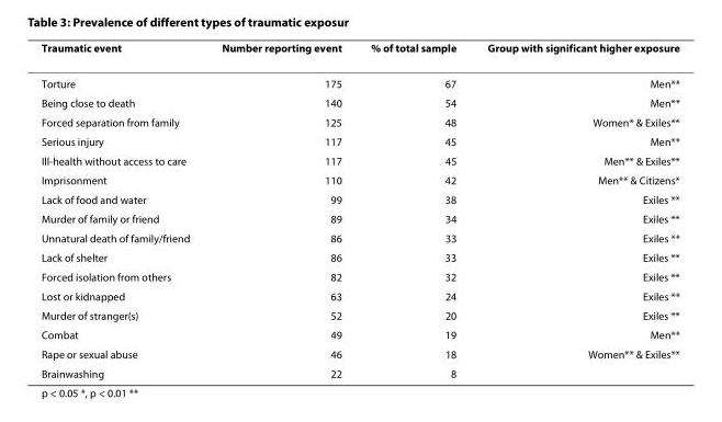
<table><thead><tr><td>Traumatic event</td><td>Number reporting event</td><td>% of total sample</td><td>Group with significant higher exposure</td></tr></thead><tbody><tr><td>Torture</td><td>175</td><td>67</td><td>Men**</td></tr><tr><td>Being close to death</td><td>140</td><td>54</td><td>Men**</td></tr><tr><td>Forced separation from family</td><td>125</td><td>48</td><td>Women* &amp; Exiles**</td></tr><tr><td>Serious injury</td><td>117</td><td>45</td><td>Men**</td></tr><tr><td>Ill-health without access to care</td><td>117</td><td>45</td><td>Men** &amp; Exiles**</td></tr><tr><td>Imprisonment</td><td>110</td><td>42</td><td>Men** &amp; Citizens*</td></tr><tr><td>Lack of food and water</td><td>99</td><td>38</td><td>Exiles **</td></tr><tr><td>Murder of family or friend</td><td>89</td><td>34</td><td>Exiles **</td></tr><tr><td>Unnatural death of family/friend</td><td>86</td><td>33</td><td>Exiles **</td></tr><tr><td>Lack of shelter</td><td>86</td><td>33</td><td>Exiles **</td></tr><tr><td>Forced isolation from others</td><td>82</td><td>32</td><td>Exiles **</td></tr><tr><td>Lost or kidnapped</td><td>63</td><td>24</td><td>Exiles **</td></tr><tr><td>Murder of stranger(s)</td><td>52</td><td>20</td><td>Exiles **</td></tr><tr><td>Combat</td><td>49</td><td>19</td><td>Men**</td></tr><tr><td>Rape or sexual abuse</td><td>46</td><td>18</td><td>Women** &amp; Exiles**</td></tr><tr><td>Brainwashing</td><td>22</td><td>8</td><td></td></tr></tbody></table>